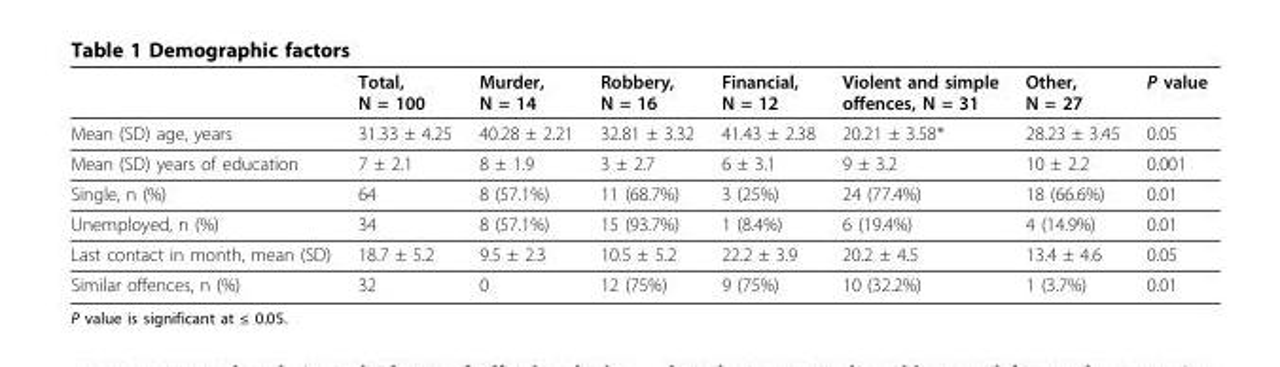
<table><thead><tr><td></td><td>Total, N = 100</td><td>Murder, N = 14</td><td>Robbery, N = 16</td><td>Financial, N = 12</td><td>Violent and simple offences, N = 31</td><td>Other, N = 27</td><td>P value</td></tr></thead><tbody><tr><td>Mean (SD) age, years</td><td>31.33 ± 4.25</td><td>40.28 ± 2.21</td><td>32.81 ± 3.32</td><td>41.43 ± 2.38</td><td>20.21 ± 3.58*</td><td>28.23 ± 3.45</td><td>0.05</td></tr><tr><td>Mean (SD) years of education</td><td>7 ± 2.1</td><td>8 ± 1.9</td><td>3 ± 2.7</td><td>6 ± 3.1</td><td>9 ± 3.2</td><td>10 ± 2.2</td><td>0.001</td></tr><tr><td>Single, n (%)</td><td>64</td><td>8 (57.1%)</td><td>11 (68.7%)</td><td>3 (25%)</td><td>24 (77.4%)</td><td>18 (66.6%)</td><td>0.01</td></tr><tr><td>Unemployed, n (%)</td><td>34</td><td>8 (57.1%)</td><td>15 (93.7%)</td><td>1 (8.4%)</td><td>6 (19.4%)</td><td>4 (14.9%)</td><td>0.01</td></tr><tr><td>Last contact in month, mean (SD)</td><td>18.7 ± 5.2</td><td>9.5 ± 2.3</td><td>10.5 ± 5.2</td><td>22.2 ± 3.9</td><td>20.2 ± 4.5</td><td>13.4 ± 4.6</td><td>0.05</td></tr><tr><td>Similar offences, n (%)</td><td>32</td><td>0</td><td>12 (75%)</td><td>9 (75%)</td><td>10 (32.2%)</td><td>1 (3.7%)</td><td>0.01</td></tr></tbody></table>